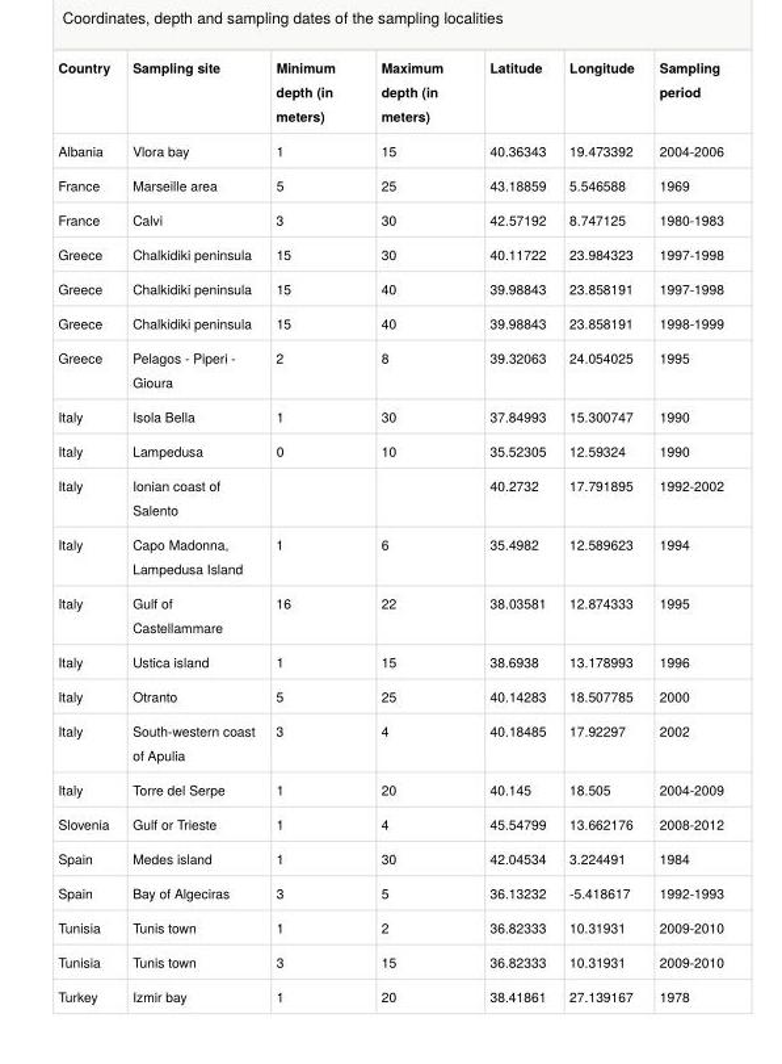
<table><thead><tr><td>Country</td><td>Sampling site</td><td>Minimum depth (in meters)</td><td>Maximum depth (in meters)</td><td>Latitude</td><td>Longitude</td><td>Sampling period</td></tr></thead><tbody><tr><td>Albania</td><td>Vlora bay</td><td>1</td><td>15</td><td>40.36343</td><td>19.473392</td><td>2004-2006</td></tr><tr><td>France</td><td>Marseille area</td><td>5</td><td>25</td><td>43.18859</td><td>5.546588</td><td>1969</td></tr><tr><td>France</td><td>Calvi</td><td>3</td><td>30</td><td>42.57192</td><td>8.747125</td><td>1980-1983</td></tr><tr><td>Greece</td><td>Chalkidiki peninsula</td><td>15</td><td>30</td><td>40.11722</td><td>23.984323</td><td>1997-1998</td></tr><tr><td>Greece</td><td>Chalkidiki peninsula</td><td>15</td><td>40</td><td>39.98843</td><td>23.858191</td><td>1997-1998</td></tr><tr><td>Greece</td><td>Chalkidiki peninsula</td><td>15</td><td>40</td><td>39.98843</td><td>23.858191</td><td>1998-1999</td></tr><tr><td>Greece</td><td>Pelagos - Piperi - Gioura</td><td>2</td><td>8</td><td>39.32063</td><td>24.054025</td><td>1995</td></tr><tr><td>Italy</td><td>Isola Bella</td><td>1</td><td>30</td><td>37.84993</td><td>15.300747</td><td>1990</td></tr><tr><td>Italy</td><td>Lampedusa</td><td>0</td><td>10</td><td>35.52305</td><td>12.59324</td><td>1990</td></tr><tr><td>Italy</td><td>Ionian coast of Salento</td><td></td><td></td><td>40.2732</td><td>17.791895</td><td>1992-2002</td></tr><tr><td>Italy</td><td>Capo Madonna, Lampedusa Island</td><td>1</td><td>6</td><td>35.4982</td><td>12.589623</td><td>1994</td></tr><tr><td>Italy</td><td>Gulf of Castellammare</td><td>16</td><td>22</td><td>38.03581</td><td>12.874333</td><td>1995</td></tr><tr><td>Italy</td><td>Ustica island</td><td>1</td><td>15</td><td>38.6938</td><td>13.178993</td><td>1996</td></tr><tr><td>Italy</td><td>Otranto</td><td>5</td><td>25</td><td>40.14283</td><td>18.507785</td><td>2000</td></tr><tr><td>Italy</td><td>South-western coast of Apulia</td><td>3</td><td>4</td><td>40.18485</td><td>17.92297</td><td>2002</td></tr><tr><td>Italy</td><td>Torre del Serpe</td><td>1</td><td>20</td><td>40.145</td><td>18.505</td><td>2004-2009</td></tr><tr><td>Slovenia</td><td>Gulf or Trieste</td><td>1</td><td>4</td><td>45.54799</td><td>13.662176</td><td>2008-2012</td></tr><tr><td>Spain</td><td>Medes island</td><td>1</td><td>30</td><td>42.04534</td><td>3.224491</td><td>1984</td></tr><tr><td>Spain</td><td>Bay of Algeciras</td><td>3</td><td>5</td><td>36.13232</td><td>-5.418617</td><td>1992-1993</td></tr><tr><td>Tunisia</td><td>Tunis town</td><td>1</td><td>2</td><td>36.82333</td><td>10.31931</td><td>2009-2010</td></tr><tr><td>Tunisia</td><td>Tunis town</td><td>3</td><td>15</td><td>36.82333</td><td>10.31931</td><td>2009-2010</td></tr><tr><td>Turkey</td><td>Izmir bay</td><td>1</td><td>20</td><td>38.41861</td><td>27.139167</td><td>1978</td></tr></tbody></table>